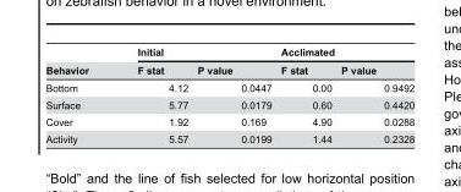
<table><thead><tr><td rowspan="2">Behavior</td><td colspan="2">Initial</td><td colspan="2">Acclimated</td></tr><tr><td>F stat</td><td>P value</td><td>F stat</td><td>P value</td></tr></thead><tbody><tr><td>Bottom</td><td>4.12</td><td>0.0447</td><td>0.00</td><td>0.9492</td></tr><tr><td>Surface</td><td>5.77</td><td>0.0179</td><td>0.60</td><td>0.4420</td></tr><tr><td>Cover</td><td>1.92</td><td>0.169</td><td>4.90</td><td>0.0288</td></tr><tr><td>Activity</td><td>5.57</td><td>0.0199</td><td>1.44</td><td>0.2328</td></tr></tbody></table>